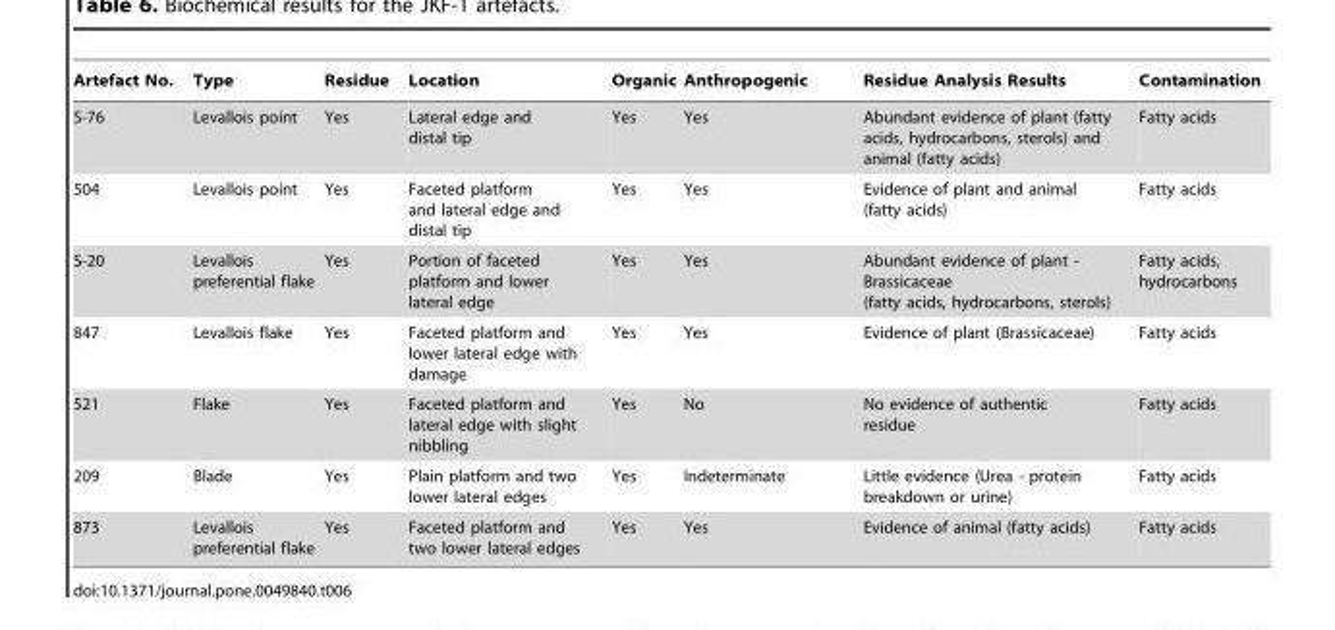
<table><thead><tr><td>Artefact No.</td><td>Type</td><td>Residue</td><td>Location</td><td>Organic</td><td>Anthropogenic</td><td>Residue Analysis Results</td><td>Contamination</td></tr></thead><tbody><tr><td>S-76</td><td>Levallois point</td><td>Yes</td><td>Lateral edge and distal tip</td><td>Yes</td><td>Yes</td><td>Abundant evidence of plant (fatty acids, hydrocarbons, sterols) and animal (fatty acids)</td><td>Fatty acids</td></tr><tr><td>504</td><td>Levallois point</td><td>Yes</td><td>Faceted platform and lateral edge and distal tip</td><td>Yes</td><td>Yes</td><td>Evidence of plant and animal (fatty acids)</td><td>Fatty acids</td></tr><tr><td>S-20</td><td>Levallois preferential flake</td><td>Yes</td><td>Portion of faceted platform and lower lateral edge</td><td>Yes</td><td>Yes</td><td>Abundant evidence of plant - Brassicaceae (fatty acids, hydrocarbons, sterols)</td><td>Fatty acids, hydrocarbons</td></tr><tr><td>847</td><td>Levallois flake</td><td>Yes</td><td>Faceted platform and lower lateral edge with damage</td><td>Yes</td><td>Yes</td><td>Evidence of plant (Brassicaceae)</td><td>Fatty acids</td></tr><tr><td>521</td><td>Flake</td><td>Yes</td><td>Faceted platform and lateral edge with slight nibbling</td><td>Yes</td><td>No</td><td>No evidence of authentic residue</td><td>Fatty acids</td></tr><tr><td>209</td><td>Blade</td><td>Yes</td><td>Plain platform and two lower lateral edges</td><td>Yes</td><td>Indeterminate</td><td>Little evidence (Urea - protein breakdown or urine)</td><td>Fatty acids</td></tr><tr><td>873</td><td>Levallois preferential flake</td><td>Yes</td><td>Faceted platform and two lower lateral edges</td><td>Yes</td><td>Yes</td><td>Evidence of animal (fatty acids)</td><td>Fatty acids</td></tr></tbody></table>